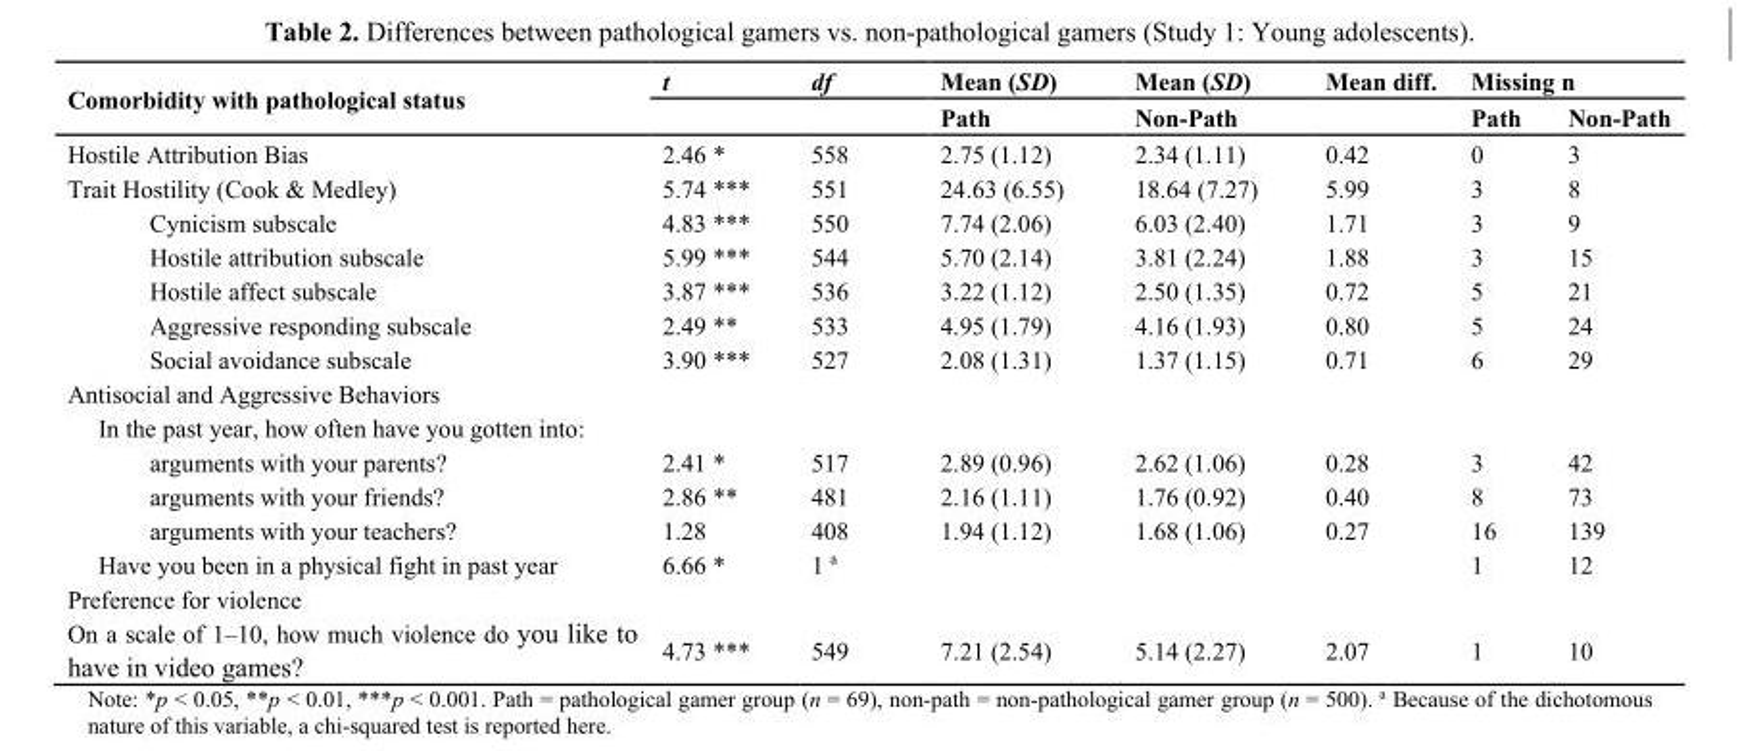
<table><thead><tr><td rowspan="2">Comorbidity with pathological status</td><td rowspan="2">t</td><td rowspan="2">df</td><td rowspan="2">Mean (SD) Path</td><td rowspan="2">Mean (SD) Non-Path</td><td rowspan="2">Mean diff.</td><td colspan="2">Missing n</td></tr><tr><td>Path</td><td>Non-Path</td></tr></thead><tbody><tr><td>Hostile Attribution Bias</td><td>2.46 *</td><td>558</td><td>2.75 (1.12)</td><td>2.34 (1.11)</td><td>0.42</td><td>0</td><td>3</td></tr><tr><td>Trait Hostility (Cook &amp; Medley)</td><td>5.74 ***</td><td>551</td><td>24.63 (6.55)</td><td>18.64 (7.27)</td><td>5.99</td><td>3</td><td>8</td></tr><tr><td>Cynicism subscale</td><td>4.83 ***</td><td>550</td><td>7.74 (2.06)</td><td>6.03 (2.40)</td><td>1.71</td><td>3</td><td>9</td></tr><tr><td>Hostile attribution subscale</td><td>5.99 ***</td><td>544</td><td>5.70 (2.14)</td><td>3.81 (2.24)</td><td>1.88</td><td>3</td><td>15</td></tr><tr><td>Hostile affect subscale</td><td>3.87 ***</td><td>536</td><td>3.22 (1.12)</td><td>2.50 (1.35)</td><td>0.72</td><td>5</td><td>21</td></tr><tr><td>Aggressive responding subscale</td><td>2.49 **</td><td>533</td><td>4.95 (1.79)</td><td>4.16 (1.93)</td><td>0.80</td><td>5</td><td>24</td></tr><tr><td>Social avoidance subscale</td><td>3.90 ***</td><td>527</td><td>2.08 (1.31)</td><td>1.37 (1.15)</td><td>0.71</td><td>6</td><td>29</td></tr><tr><td colspan="8">Antisocial and Aggressive Behaviors</td></tr><tr><td colspan="8">In the past year, how often have you gotten into:</td></tr><tr><td>arguments with your parents?</td><td>2.41 *</td><td>517</td><td>2.89 (0.96)</td><td>2.62 (1.06)</td><td>0.28</td><td>3</td><td>42</td></tr><tr><td>arguments with your friends?</td><td>2.86 **</td><td>481</td><td>2.16 (1.11)</td><td>1.76 (0.92)</td><td>0.40</td><td>8</td><td>73</td></tr><tr><td>arguments with your teachers?</td><td>1.28</td><td>408</td><td>1.94 (1.12)</td><td>1.68 (1.06)</td><td>0.27</td><td>16</td><td>139</td></tr><tr><td>Have you been in a physical fight in past year</td><td>6.66 *</td><td>1 <sup>a</sup></td><td></td><td></td><td></td><td>1</td><td>12</td></tr><tr><td colspan="8">Preference for violence</td></tr><tr><td>On a scale of 1–10, how much violence do you like to have in video games?</td><td>4.73 ***</td><td>549</td><td>7.21 (2.54)</td><td>5.14 (2.27)</td><td>2.07</td><td>1</td><td>10</td></tr></tbody></table>